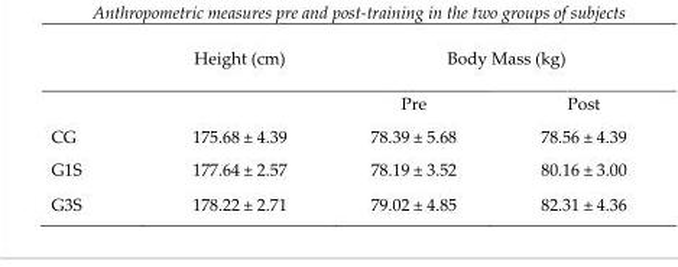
<table><thead><tr><td rowspan="2"></td><td rowspan="2">Height (cm)</td><td colspan="2">Body Mass (kg)</td></tr><tr><td>Pre</td><td>Post</td></tr></thead><tbody><tr><td>CG</td><td>175.68 ± 4.39</td><td>78.39 ± 5.68</td><td>78.56 ± 4.39</td></tr><tr><td>G1S</td><td>177.64 ± 2.57</td><td>78.19 ± 3.52</td><td>80.16 ± 3.00</td></tr><tr><td>G3S</td><td>178.22 ± 2.71</td><td>79.02 ± 4.85</td><td>82.31 ± 4.36</td></tr></tbody></table>